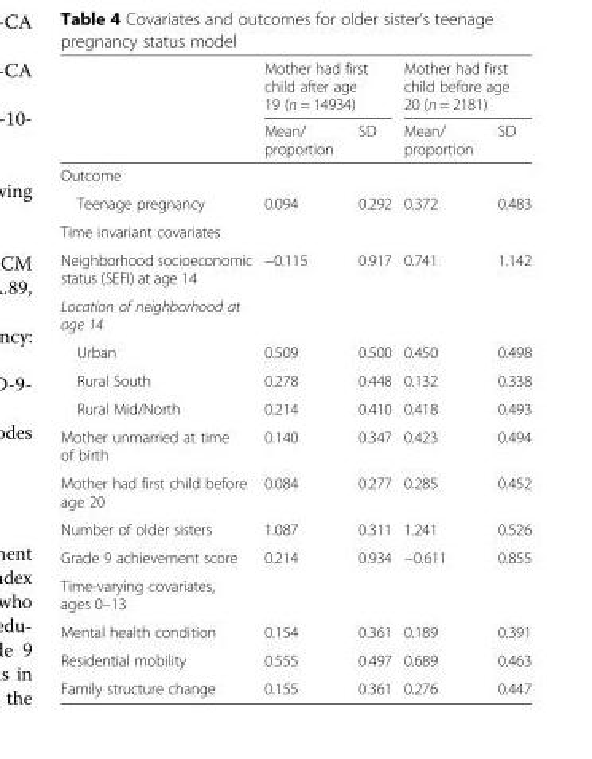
<table><thead><tr><td rowspan="2"></td><td colspan="2">Mother had first child after age 19 (n = 14934)</td><td colspan="2">Mother had first child before age 20 (n = 2181)</td></tr><tr><td>Mean/ proportion</td><td>SD</td><td>Mean/ proportion</td><td>SD</td></tr></thead><tbody><tr><td colspan="5">Outcome</td></tr><tr><td>Teenage pregnancy</td><td>0.094</td><td>0.292</td><td>0.372</td><td>0.483</td></tr><tr><td colspan="5">Time invariant covariates</td></tr><tr><td>Neighborhood socioeconomic status (SEFI) at age 14</td><td>−0.115</td><td>0.917</td><td>0.741</td><td>1.142</td></tr><tr><td colspan="5">Location of neighborhood at age 14</td></tr><tr><td>Urban</td><td>0.509</td><td>0.500</td><td>0.450</td><td>0.498</td></tr><tr><td>Rural South</td><td>0.278</td><td>0.448</td><td>0.132</td><td>0.338</td></tr><tr><td>Rural Mid/North</td><td>0.214</td><td>0.410</td><td>0.418</td><td>0.493</td></tr><tr><td>Mother unmarried at time of birth</td><td>0.140</td><td>0.347</td><td>0.423</td><td>0.494</td></tr><tr><td>Mother had first child before age 20</td><td>0.084</td><td>0.277</td><td>0.285</td><td>0.452</td></tr><tr><td>Number of older sisters</td><td>1.087</td><td>0.311</td><td>1.241</td><td>0.526</td></tr><tr><td>Grade 9 achievement score</td><td>0.214</td><td>0.934</td><td>−0.611</td><td>0.855</td></tr><tr><td colspan="5">Time-varying covariates, ages 0–13</td></tr><tr><td>Mental health condition</td><td>0.154</td><td>0.361</td><td>0.189</td><td>0.391</td></tr><tr><td>Residential mobility</td><td>0.555</td><td>0.497</td><td>0.689</td><td>0.463</td></tr><tr><td>Family structure change</td><td>0.155</td><td>0.361</td><td>0.276</td><td>0.447</td></tr></tbody></table>